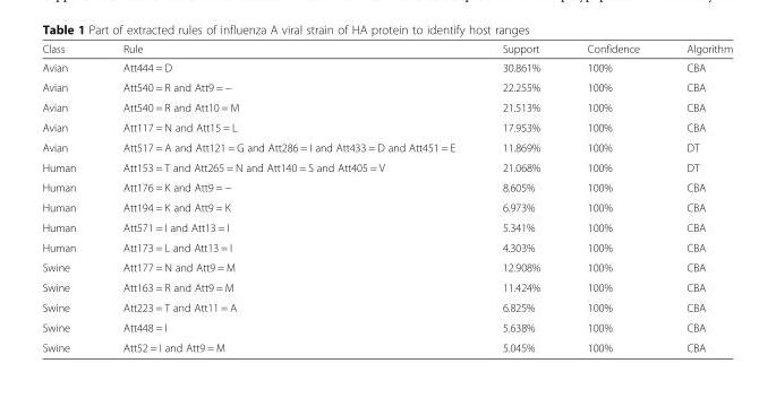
<table><thead><tr><td>Class</td><td>Rule</td><td>Support</td><td>Confidence</td><td>Algorithm</td></tr></thead><tbody><tr><td>Avian</td><td>Att444 = D</td><td>30.861%</td><td>100%</td><td>CBA</td></tr><tr><td>Avian</td><td>Att540 = R and Att9 = −</td><td>22.255%</td><td>100%</td><td>CBA</td></tr><tr><td>Avian</td><td>Att540 = R and Att10 = M</td><td>21.513%</td><td>100%</td><td>CBA</td></tr><tr><td>Avian</td><td>Att117 = N and Att15 = L</td><td>17.953%</td><td>100%</td><td>CBA</td></tr><tr><td>Avian</td><td>Att517 = A and Att121 = G and Att286 = I and Att433 = D and Att451 = E</td><td>11.869%</td><td>100%</td><td>DT</td></tr><tr><td>Human</td><td>Att153 = T and Att265 = N and Att140 = S and Att405 = V</td><td>21.068%</td><td>100%</td><td>DT</td></tr><tr><td>Human</td><td>Att176 = K and Att9 = −</td><td>8.605%</td><td>100%</td><td>CBA</td></tr><tr><td>Human</td><td>Att194 = K and Att9 = K</td><td>6.973%</td><td>100%</td><td>CBA</td></tr><tr><td>Human</td><td>Att571 = I and Att13 = I</td><td>5.341%</td><td>100%</td><td>CBA</td></tr><tr><td>Human</td><td>Att173 = L and Att13 = I</td><td>4.303%</td><td>100%</td><td>CBA</td></tr><tr><td>Swine</td><td>Att177 = N and Att9 = M</td><td>12.908%</td><td>100%</td><td>CBA</td></tr><tr><td>Swine</td><td>Att163 = R and Att9 = M</td><td>11.424%</td><td>100%</td><td>CBA</td></tr><tr><td>Swine</td><td>Att223 = T and Att11 = A</td><td>6.825%</td><td>100%</td><td>CBA</td></tr><tr><td>Swine</td><td>Att448 = I</td><td>5.638%</td><td>100%</td><td>CBA</td></tr><tr><td>Swine</td><td>Att52 = I and Att9 = M</td><td>5.045%</td><td>100%</td><td>CBA</td></tr></tbody></table>